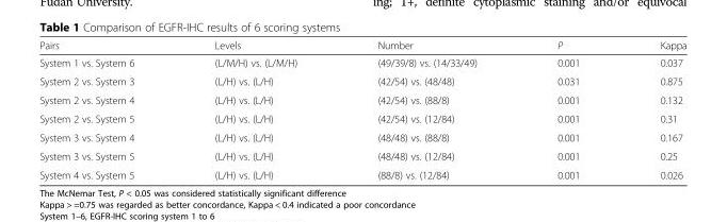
<table><thead><tr><td>Pairs</td><td>Levels</td><td>Number</td><td>P</td><td>Kappa</td></tr></thead><tbody><tr><td>System 1 vs. System 6</td><td>(L/M/H) vs. (L/M/H)</td><td>(49/39/8) vs. (14/33/49)</td><td>0.001</td><td>0.037</td></tr><tr><td>System 2 vs. System 3</td><td>(L/H) vs. (L/H)</td><td>(42/54) vs. (48/48)</td><td>0.031</td><td>0.875</td></tr><tr><td>System 2 vs. System 4</td><td>(L/H) vs. (L/H)</td><td>(42/54) vs. (88/8)</td><td>0.001</td><td>0.132</td></tr><tr><td>System 2 vs. System 5</td><td>(L/H) vs. (L/H)</td><td>(42/54) vs. (12/84)</td><td>0.001</td><td>0.31</td></tr><tr><td>System 3 vs. System 4</td><td>(L/H) vs. (L/H)</td><td>(48/48) vs. (88/8)</td><td>0.001</td><td>0.167</td></tr><tr><td>System 3 vs. System 5</td><td>(L/H) vs. (L/H)</td><td>(48/48) vs. (12/84)</td><td>0.001</td><td>0.25</td></tr><tr><td>System 4 vs. System 5</td><td>(L/H) vs. (L/H)</td><td>(88/8) vs. (12/84)</td><td>0.001</td><td>0.026</td></tr></tbody></table>